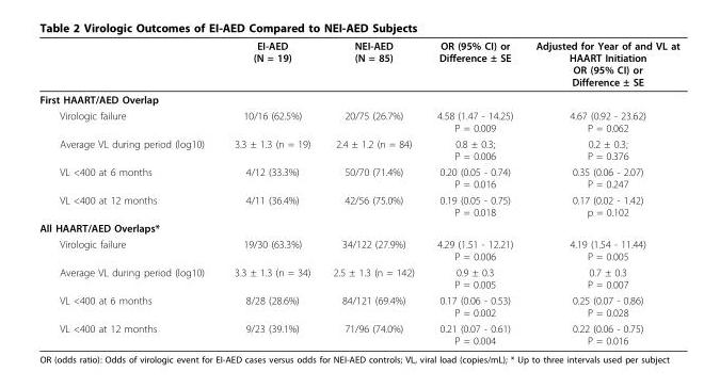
<table><thead><tr><td></td><td>EI-AED (N = 19)</td><td>NEI-AED (N = 85)</td><td>OR (95% CI) or Difference ± SE</td><td>Adjusted for Year of and VL at HAART Initiation OR (95% CI) or Difference ± SE</td></tr></thead><tbody><tr><td colspan="5">First HAART/AED Overlap</td></tr><tr><td>Virologic failure</td><td>10/16 (62.5%)</td><td>20/75 (26.7%)</td><td>4.58 (1.47 - 14.25) P = 0.009</td><td>4.67 (0.92 - 23.62) P = 0.062</td></tr><tr><td>Average VL during period (log10)</td><td>3.3 ± 1.3 (n = 19)</td><td>2.4 ± 1.2 (n = 84)</td><td>0.8 ± 0.3; P = 0.006</td><td>0.2 ± 0.3; P = 0.376</td></tr><tr><td>VL &lt;400 at 6 months</td><td>4/12 (33.3%)</td><td>50/70 (71.4%)</td><td>0.20 (0.05 - 0.74) P = 0.016</td><td>0.35 (0.06 - 2.07) P = 0.247</td></tr><tr><td>VL &lt;400 at 12 months</td><td>4/11 (36.4%)</td><td>42/56 (75.0%)</td><td>0.19 (0.05 - 0.75) P = 0.018</td><td>0.17 (0.02 - 1.42) p = 0.102</td></tr><tr><td colspan="5">All HAART/AED Overlaps*</td></tr><tr><td>Virologic failure</td><td>19/30 (63.3%)</td><td>34/122 (27.9%)</td><td>4.29 (1.51 - 12.21) P = 0.006</td><td>4.19 (1.54 - 11.44) P = 0.005</td></tr><tr><td>Average VL during period (log10)</td><td>3.3 ± 1.3 (n = 34)</td><td>2.5 ± 1.3 (n = 142)</td><td>0.9 ± 0.3 P = 0.005</td><td>0.7 ± 0.3 P = 0.007</td></tr><tr><td>VL &lt;400 at 6 months</td><td>8/28 (28.6%)</td><td>84/121 (69.4%)</td><td>0.17 (0.06 - 0.53) P = 0.002</td><td>0.25 (0.07 - 0.86) P = 0.028</td></tr><tr><td>VL &lt;400 at 12 months</td><td>9/23 (39.1%)</td><td>71/96 (74.0%)</td><td>0.21 (0.07 - 0.61) P = 0.004</td><td>0.22 (0.06 - 0.75) P = 0.016</td></tr></tbody></table>